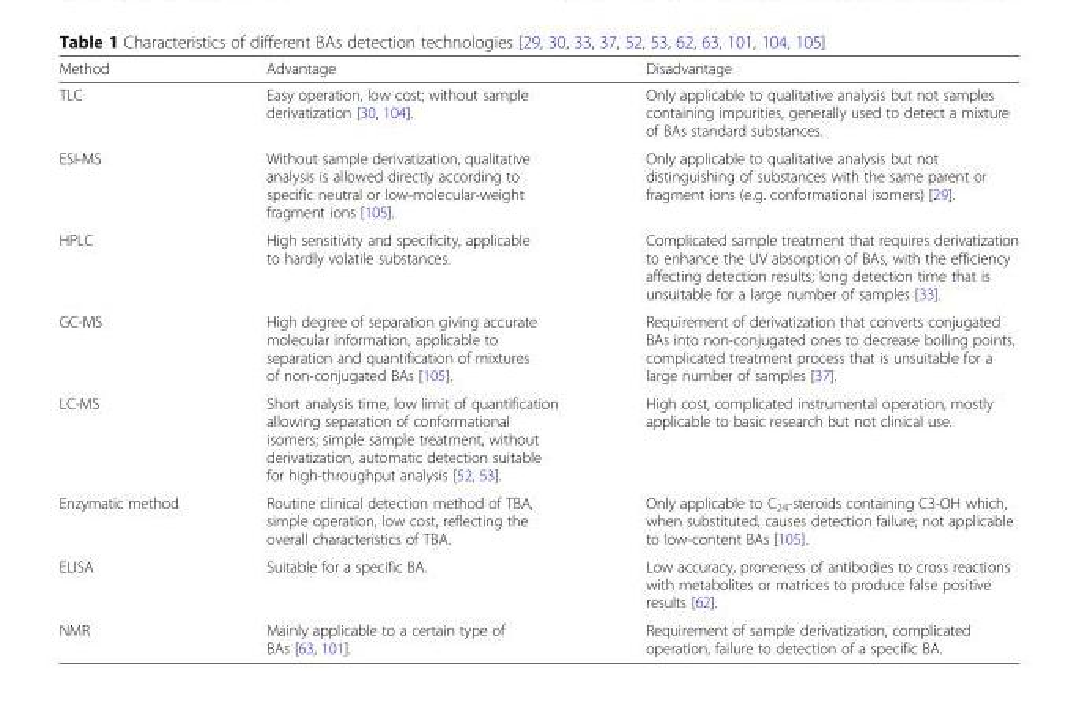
<table><thead><tr><td>Method</td><td>Advantage</td><td>Disadvantage</td></tr></thead><tbody><tr><td>TLC</td><td>Easy operation, low cost; without sample derivatization [30, 104].</td><td>Only applicable to qualitative analysis but not samples containing impurities, generally used to detect a mixture of BAs standard substances.</td></tr><tr><td>ESI-MS</td><td>Without sample derivatization, qualitative analysis is allowed directly according to specific neutral or low-molecular-weight fragment ions [105].</td><td>Only applicable to qualitative analysis but not distinguishing of substances with the same parent or fragment ions (e.g. conformational isomers) [29].</td></tr><tr><td>HPLC</td><td>High sensitivity and specificity, applicable to hardly volatile substances.</td><td>Complicated sample treatment that requires derivatization to enhance the UV absorption of BAs, with the efficiency affecting detection results; long detection time that is unsuitable for a large number of samples [33].</td></tr><tr><td>GC-MS</td><td>High degree of separation giving accurate molecular information, applicable to separation and quantification of mixtures of non-conjugated BAs [105].</td><td>Requirement of derivatization that converts conjugated BAs into non-conjugated ones to decrease boiling points, complicated treatment process that is unsuitable for a large number of samples [37].</td></tr><tr><td>LC-MS</td><td>Short analysis time, low limit of quantification allowing separation of conformational isomers; simple sample treatment, without derivatization, automatic detection suitable for high-throughput analysis [52, 53].</td><td>High cost, complicated instrumental operation, mostly applicable to basic research but not clinical use.</td></tr><tr><td>Enzymatic method</td><td>Routine clinical detection method of TBA, simple operation, low cost, reflecting the overall characteristics of TBA.</td><td>Only applicable to C<sub>24</sub>-steroids containing C3-OH which, when substituted, causes detection failure; not applicable to low-content BAs [105].</td></tr><tr><td>ELISA</td><td>Suitable for a specific BA.</td><td>Low accuracy, proneness of antibodies to cross reactions with metabolites or matrices to produce false positive results [62].</td></tr><tr><td>NMR</td><td>Mainly applicable to a certain type of BAs [63, 101].</td><td>Requirement of sample derivatization, complicated operation, failure to detection of a specific BA.</td></tr></tbody></table>